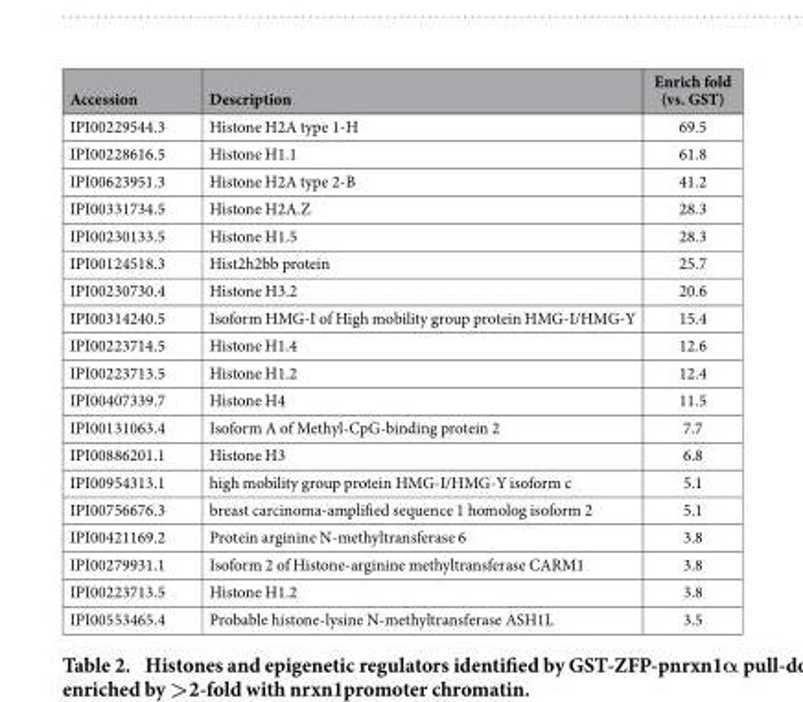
<table><thead><tr><td>Accession</td><td>Description</td><td>Enrich fold (vs. GST)</td></tr></thead><tbody><tr><td>IPI00229544.3</td><td>Histone H2A type 1-H</td><td>69.5</td></tr><tr><td>IPI00228616.5</td><td>Histone H1.1</td><td>61.8</td></tr><tr><td>IPI00623951.3</td><td>Histone H2A type 2-B</td><td>41.2</td></tr><tr><td>IPI00331734.5</td><td>Histone H2A.Z</td><td>28.3</td></tr><tr><td>IPI00230133.5</td><td>Histone H1.5</td><td>28.3</td></tr><tr><td>IPI00124518.3</td><td>Hist2h2bb protein</td><td>25.7</td></tr><tr><td>IPI00230730.4</td><td>Histone H3.2</td><td>20.6</td></tr><tr><td>IPI00314240.5</td><td>Isoform HMG-I of High mobility group protein HMG-I/HMG-Y</td><td>15.4</td></tr><tr><td>IPI00223714.5</td><td>Histone H1.4</td><td>12.6</td></tr><tr><td>IPI00223713.5</td><td>Histone H1.2</td><td>12.4</td></tr><tr><td>IPI00407339.7</td><td>Histone H4</td><td>11.5</td></tr><tr><td>IPI00131063.4</td><td>Isoform A of Methyl-CpG-binding protein 2</td><td>7.7</td></tr><tr><td>IPI00886201.1</td><td>Histone H3</td><td>6.8</td></tr><tr><td>IPI00954313.1</td><td>high mobility group protein HMG-I/HMG-Y isoform c</td><td>5.1</td></tr><tr><td>IPI00756676.3</td><td>breast carcinoma-amplified sequence 1 homolog isoform 2</td><td>5.1</td></tr><tr><td>IPI00421169.2</td><td>Protein arginine N-methyltransferase 6</td><td>3.8</td></tr><tr><td>IPI00279931.1</td><td>Isoform 2 of Histone-arginine methyltransferase CARM1</td><td>3.8</td></tr><tr><td>IPI00223713.5</td><td>Histone H1.2</td><td>3.8</td></tr><tr><td>IPI00553465.4</td><td>Probable histone-lysine N-methyltransferase ASH1L</td><td>3.5</td></tr></tbody></table>